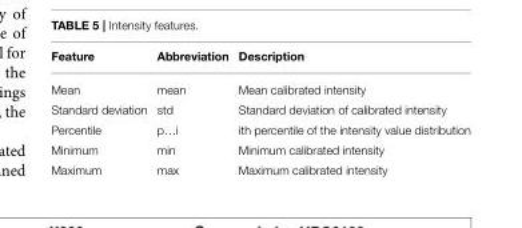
<table><thead><tr><td>Feature</td><td>Abbreviation</td><td>Description</td></tr></thead><tbody><tr><td>Mean</td><td>mean</td><td>Mean calibrated intensity</td></tr><tr><td>Standard deviation</td><td>std</td><td>Standard deviation of calibrated intensity</td></tr><tr><td>Percentile</td><td>p…i</td><td>ith percentile of the intensity value distribution</td></tr><tr><td>Minimum</td><td>min</td><td>Minimum calibrated intensity</td></tr><tr><td>Maximum</td><td>max</td><td>Maximum calibrated intensity</td></tr></tbody></table>